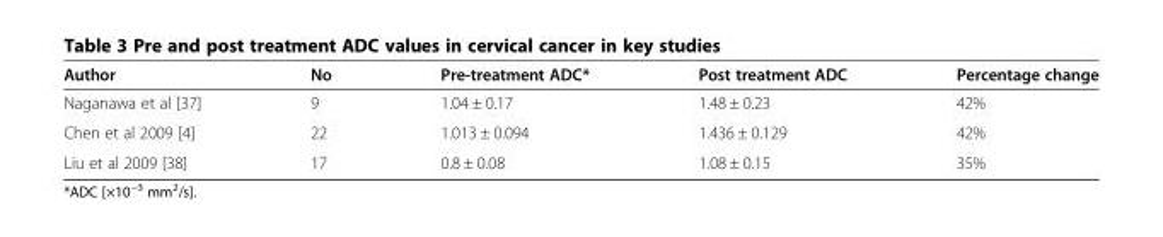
<table><thead><tr><td>Author</td><td>No</td><td>Pre-treatment ADC*</td><td>Post treatment ADC</td><td>Percentage change</td></tr></thead><tbody><tr><td>Naganawa et al [37]</td><td>9</td><td>1.04 ± 0.17</td><td>1.48 ± 0.23</td><td>42%</td></tr><tr><td>Chen et al 2009 [4]</td><td>22</td><td>1.013 ± 0.094</td><td>1.436 ± 0.129</td><td>42%</td></tr><tr><td>Liu et al 2009 [38]</td><td>17</td><td>0.8 ± 0.08</td><td>1.08 ± 0.15</td><td>35%</td></tr></tbody></table>